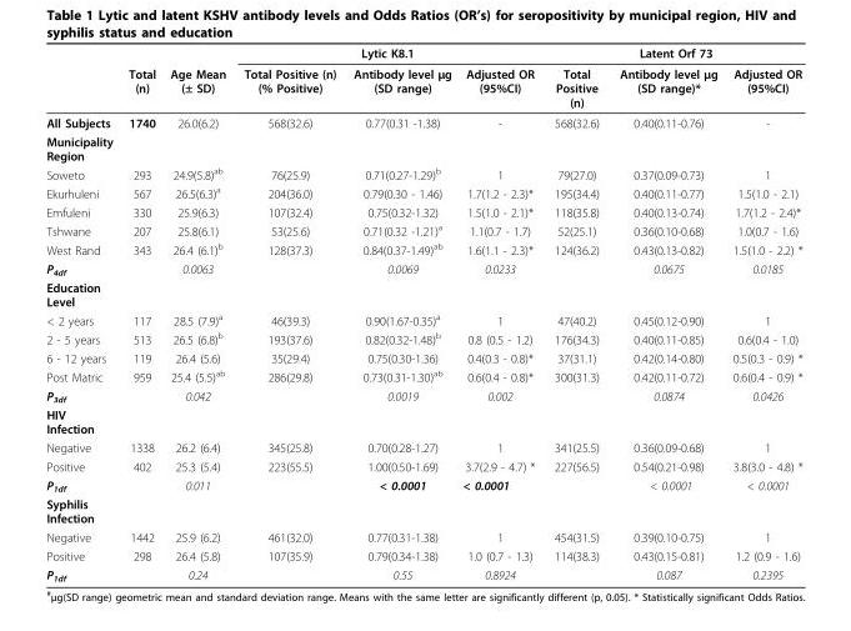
<table><thead><tr><td rowspan="2"></td><td rowspan="2">Total (n)</td><td rowspan="2">Age Mean (± SD)</td><td colspan="3">Lytic K8.1</td><td colspan="3">Latent Orf 73</td></tr><tr><td>Total Positive (n) (% Positive)</td><td>Antibody level μg (SD range)</td><td>Adjusted OR (95%CI)</td><td>Total Positive (n)</td><td>Antibody level μg (SD range)*</td><td>Adjusted OR (95%CI)</td></tr></thead><tbody><tr><td>All Subjects</td><td>1740</td><td>26.0(6.2)</td><td>568(32.6)</td><td>0.77(0.31 -1.38)</td><td>-</td><td>568(32.6)</td><td>0.40(0.11-0.76)</td><td>-</td></tr><tr><td colspan="9">Municipality Region</td></tr><tr><td>Soweto</td><td>293</td><td>24.9(5.8)<sup>ab</sup></td><td>76(25.9)</td><td>0.71(0.27-1.29)<sup>b</sup></td><td>1</td><td>79(27.0)</td><td>0.37(0.09-0.73)</td><td>1</td></tr><tr><td>Ekurhuleni</td><td>567</td><td>26.5(6.3)<sup>a</sup></td><td>204(36.0)</td><td>0.79(0.30 - 1.46)</td><td>1.7(1.2 - 2.3)*</td><td>195(34.4)</td><td>0.40(0.11-0.77)</td><td>1.5(1.0 - 2.1)</td></tr><tr><td>Emfuleni</td><td>330</td><td>25.9(6.3)</td><td>107(32.4)</td><td>0.75(0.32-1.32)</td><td>1.5(1.0 - 2.1)*</td><td>118(35.8)</td><td>0.40(0.13-0.74)</td><td>1.7(1.2 - 2.4)*</td></tr><tr><td>Tshwane</td><td>207</td><td>25.8(6.1)</td><td>53(25.6)</td><td>0.71(0.32 -1.21)<sup>a</sup></td><td>1.1(0.7 - 1.7)</td><td>52(25.1)</td><td>0.36(0.10-0.68)</td><td>1.0(0.7 - 1.6)</td></tr><tr><td>West Rand</td><td>343</td><td>26.4 (6.1)<sup>b</sup></td><td>128(37.3)</td><td>0.84(0.37-1.49)<sup>ab</sup></td><td>1.6(1.1 - 2.3)*</td><td>124(36.2)</td><td>0.43(0.13-0.82)</td><td>1.5(1.0 - 2.2) *</td></tr><tr><td>P<sub>4df</sub></td><td></td><td>0.0063</td><td></td><td>0.0069</td><td>0.0233</td><td></td><td>0.0675</td><td>0.0185</td></tr><tr><td colspan="9">Education Level</td></tr><tr><td>&lt; 2 years</td><td>117</td><td>28.5 (7.9)<sup>a</sup></td><td>46(39.3)</td><td>0.90(1.67-0.35)<sup>a</sup></td><td>1</td><td>47(40.2)</td><td>0.45(0.12-0.90)</td><td>1</td></tr><tr><td>2 - 5 years</td><td>513</td><td>26.5 (6.8)<sup>b</sup></td><td>193(37.6)</td><td>0.82(0.32-1.48)<sup>b</sup></td><td>0.8 (0.5 - 1.2)</td><td>176(34.3)</td><td>0.40(0.11-0.85)</td><td>0.6(0.4 - 1.0)</td></tr><tr><td>6 - 12 years</td><td>119</td><td>26.4 (5.6)</td><td>35(29.4)</td><td>0.75(0.30-1.36)</td><td>0.4(0.3 - 0.8)*</td><td>37(31.1)</td><td>0.42(0.14-0.80)</td><td>0.5(0.3 - 0.9) *</td></tr><tr><td>Post Matric</td><td>959</td><td>25.4 (5.5)<sup>ab</sup></td><td>286(29.8)</td><td>0.73(0.31-1.30)<sup>ab</sup></td><td>0.6(0.4 - 0.8)*</td><td>300(31.3)</td><td>0.42(0.11-0.72)</td><td>0.6(0.4 - 0.9) *</td></tr><tr><td>P<sub>3df</sub></td><td></td><td>0.042</td><td></td><td>0.0019</td><td>0.002</td><td></td><td>0.0874</td><td>0.0426</td></tr><tr><td colspan="9">HIV Infection</td></tr><tr><td>Negative</td><td>1338</td><td>26.2 (6.4)</td><td>345(25.8)</td><td>0.70(0.28-1.27)</td><td>1</td><td>341(25.5)</td><td>0.36(0.09-0.68)</td><td>1</td></tr><tr><td>Positive</td><td>402</td><td>25.3 (5.4)</td><td>223(55.5)</td><td>1.00(0.50-1.69)</td><td>3.7(2.9 - 4.7) *</td><td>227(56.5)</td><td>0.54(0.21-0.98)</td><td>3.8(3.0 - 4.8) *</td></tr><tr><td>P<sub>1df</sub></td><td></td><td>0.011</td><td></td><td>&lt; 0.0001</td><td>&lt; 0.0001</td><td></td><td>&lt; 0.0001</td><td>&lt; 0.0001</td></tr><tr><td colspan="9">Syphilis Infection</td></tr><tr><td>Negative</td><td>1442</td><td>25.9 (6.2)</td><td>461(32.0)</td><td>0.77(0.31-1.38)</td><td>1</td><td>454(31.5)</td><td>0.39(0.10-0.75)</td><td>1</td></tr><tr><td>Positive</td><td>298</td><td>26.4 (5.8)</td><td>107(35.9)</td><td>0.79(0.34-1.38)</td><td>1.0 (0.7 - 1.3)</td><td>114(38.3)</td><td>0.43(0.15-0.81)</td><td>1.2 (0.9 - 1.6)</td></tr><tr><td>P<sub>1df</sub></td><td></td><td>0.24</td><td></td><td>0.55</td><td>0.8924</td><td></td><td>0.087</td><td>0.2395</td></tr></tbody></table>